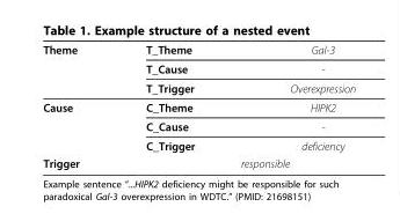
<table><thead><tr><td rowspan="3">Theme</td><td rowspan="3">T_Theme T_Cause T_Trigger</td><td rowspan="3">Gal-3 - Overexpression</td></tr><tr></tr><tr></tr></thead><tbody><tr><td rowspan="3">Cause</td><td>C_Theme</td><td>HIPK2</td></tr><tr><td>C_Cause</td><td>-</td></tr><tr><td>C_Trigger</td><td>deficiency</td></tr><tr><td>Trigger</td><td colspan="2">responsible</td></tr></tbody></table>